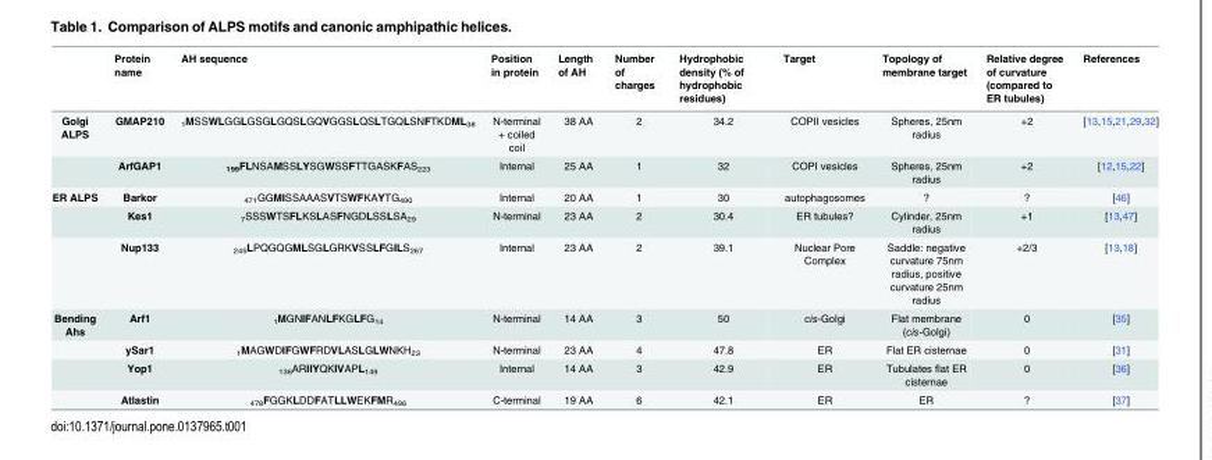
<table><thead><tr><td></td><td>Protein name</td><td>AH sequence</td><td>Position in protein</td><td>Length of AH</td><td>Number of charges</td><td>Hydrophobic density (% of hydrophobic residues)</td><td>Target</td><td>Topology of membrane target</td><td>Relative degree of curvature (compared to ER tubules)</td><td>References</td></tr></thead><tbody><tr><td rowspan="2">Golgi ALPS</td><td>GMAP210</td><td><sub>1</sub>MSSWLGGLGSGLGQSLGQVGGSLQSLTGQLSNFTKDML<sub>38</sub></td><td>N-terminal + coiled coil</td><td>38 AA</td><td>2</td><td>34.2</td><td>COPII vesicles</td><td>Spheres, 25nm radius</td><td>+2</td><td>[13,15,21,29,32]</td></tr><tr><td>ArfGAP1</td><td><sub>199</sub>FLNSAMSSLYSGWSSFTTGASKFAS<sub>223</sub></td><td>Internal</td><td>25 AA</td><td>1</td><td>32</td><td>COPI vesicles</td><td>Spheres, 25nm radius</td><td>+2</td><td>[12,15,22]</td></tr><tr><td rowspan="3">ER ALPS</td><td>Barkor</td><td><sub>471</sub>GGMISSAAASVTSWFKAYTG<sub>490</sub></td><td>Internal</td><td>20 AA</td><td>1</td><td>30</td><td>autophagosomes</td><td>?</td><td>?</td><td>[46]</td></tr><tr><td>Kes1</td><td><sub>7</sub>SSSWTSFLKSLASFNGDLSSLSA<sub>29</sub></td><td>N-terminal</td><td>23 AA</td><td>2</td><td>30.4</td><td>ER tubules?</td><td>Cylinder, 25nm radius</td><td>+1</td><td>[13,47]</td></tr><tr><td>Nup133</td><td><sub>245</sub>LPQGQGMLSGLGRKVSSLFGILS<sub>267</sub></td><td>Internal</td><td>23 AA</td><td>2</td><td>39.1</td><td>Nuclear Pore Complex</td><td>Saddle: negative curvature 75nm radius, positive curvature 25nm radius</td><td>+2/3</td><td>[13,18]</td></tr><tr><td rowspan="4">Bending Ahs</td><td>Arf1</td><td><sub>1</sub>MGNIFANLFKGLFG<sub>14</sub></td><td>N-terminal</td><td>14 AA</td><td>3</td><td>50</td><td>cis-Golgi</td><td>Flat membrane (cis-Golgi)</td><td>0</td><td>[35]</td></tr><tr><td>ySar1</td><td><sub>1</sub>MAGWDIFGWFRDVLASLGLWNKH<sub>23</sub></td><td>N-terminal</td><td>23 AA</td><td>4</td><td>47.8</td><td>ER</td><td>Flat ER cisternae</td><td>0</td><td>[31]</td></tr><tr><td>Yop1</td><td><sub>136</sub>ARIIYQKIVAPL<sub>149</sub></td><td>Internal</td><td>14 AA</td><td>3</td><td>42.9</td><td>ER</td><td>Tubulates flat ER cisternae</td><td>0</td><td>[36]</td></tr><tr><td>Atlastin</td><td><sub>478</sub>FGGKLDDFATLLWEKFMR<sub>496</sub></td><td>C-terminal</td><td>19 AA</td><td>6</td><td>42.1</td><td>ER</td><td>ER</td><td>?</td><td>[37]</td></tr></tbody></table>